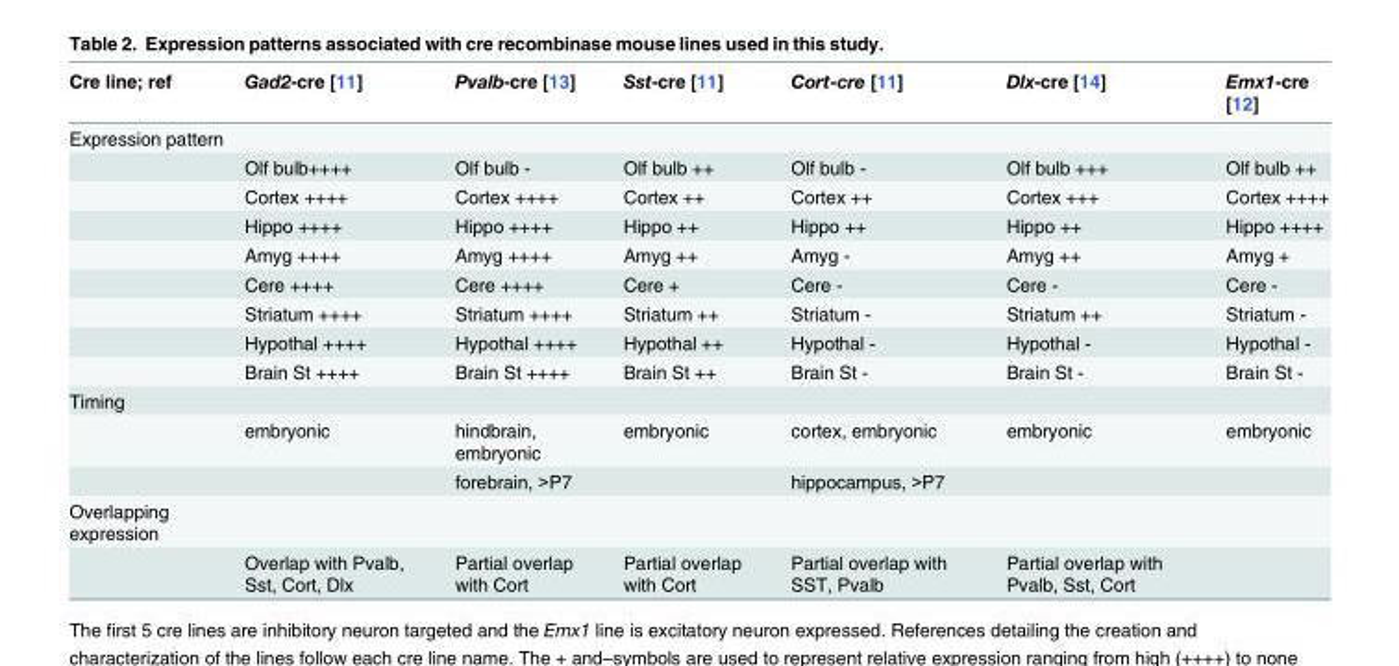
<table><thead><tr><td>Cre line; ref</td><td>Gad2-cre [11]</td><td>Pvalb-cre [13]</td><td>Sst-cre [11]</td><td>Cort-cre [11]</td><td>Dlx-cre [14]</td><td>Emx1-cre [12]</td></tr></thead><tbody><tr><td colspan="7">Expression pattern</td></tr><tr><td></td><td>Olf bulb++++</td><td>Olf bulb -</td><td>Olf bulb ++</td><td>Olf bulb -</td><td>Olf bulb +++</td><td>Olf bulb ++</td></tr><tr><td></td><td>Cortex ++++</td><td>Cortex ++++</td><td>Cortex ++</td><td>Cortex ++</td><td>Cortex +++</td><td>Cortex ++++</td></tr><tr><td></td><td>Hippo ++++</td><td>Hippo ++++</td><td>Hippo ++</td><td>Hippo ++</td><td>Hippo ++</td><td>Hippo ++++</td></tr><tr><td></td><td>Amyg ++++</td><td>Amyg ++++</td><td>Amyg ++</td><td>Amyg -</td><td>Amyg ++</td><td>Amyg +</td></tr><tr><td></td><td>Cere ++++</td><td>Cere ++++</td><td>Cere +</td><td>Cere -</td><td>Cere -</td><td>Cere -</td></tr><tr><td></td><td>Striatum ++++</td><td>Striatum ++++</td><td>Striatum ++</td><td>Striatum -</td><td>Striatum ++</td><td>Striatum -</td></tr><tr><td></td><td>Hypothal ++++</td><td>Hypothal ++++</td><td>Hypothal ++</td><td>Hypothal -</td><td>Hypothal -</td><td>Hypothal -</td></tr><tr><td></td><td>Brain St ++++</td><td>Brain St ++++</td><td>Brain St ++</td><td>Brain St -</td><td>Brain St -</td><td>Brain St -</td></tr><tr><td colspan="7">Timing</td></tr><tr><td></td><td>embryonic</td><td>hindbrain, embryonic</td><td>embryonic</td><td>cortex, embryonic</td><td>embryonic</td><td>embryonic</td></tr><tr><td></td><td></td><td>forebrain, &gt;P7</td><td></td><td>hippocampus, &gt;P7</td><td></td><td></td></tr><tr><td colspan="7">Overlapping expression</td></tr><tr><td></td><td>Overlap with Pvalb, Sst, Cort, Dlx</td><td>Partial overlap with Cort</td><td>Partial overlap with Cort</td><td>Partial overlap with SST, Pvalb</td><td>Partial overlap with Pvalb, Sst, Cort</td><td></td></tr></tbody></table>